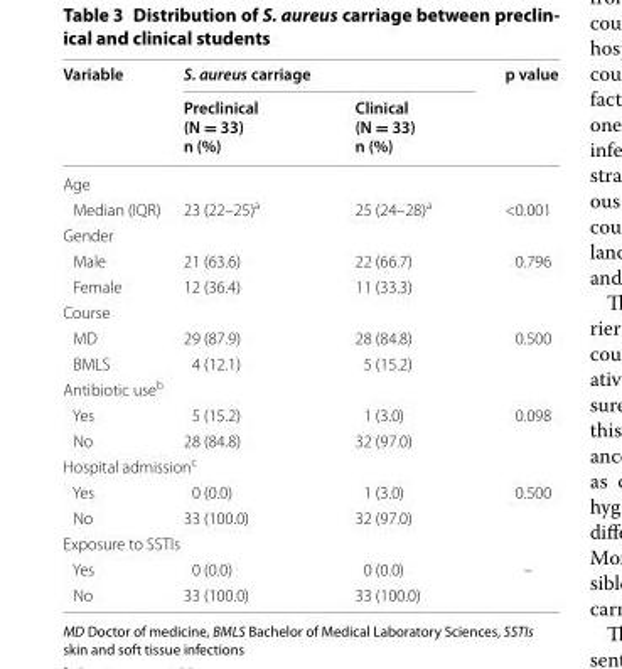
<table><thead><tr><td rowspan="2">Variable</td><td colspan="2">S. aureus carriage</td><td rowspan="2">p value</td></tr><tr><td>Preclinical (N = 33) n (%)</td><td>Clinical (N = 33) n (%)</td></tr></thead><tbody><tr><td colspan="4">Age</td></tr><tr><td>Median (IQR)</td><td>23 (22–25)<sup>a</sup></td><td>25 (24–28)<sup>a</sup></td><td>&lt;0.001</td></tr><tr><td colspan="4">Gender</td></tr><tr><td>Male</td><td>21 (63.6)</td><td>22 (66.7)</td><td rowspan="2">0.796</td></tr><tr><td>Female</td><td>12 (36.4)</td><td>11 (33.3)</td></tr><tr><td colspan="4">Course</td></tr><tr><td>MD</td><td>29 (87.9)</td><td>28 (84.8)</td><td rowspan="2">0.500</td></tr><tr><td>BMLS</td><td>4 (12.1)</td><td>5 (15.2)</td></tr><tr><td colspan="4">Antibiotic use<sup>b</sup></td></tr><tr><td>Yes</td><td>5 (15.2)</td><td>1 (3.0)</td><td rowspan="2">0.098</td></tr><tr><td>No</td><td>28 (84.8)</td><td>32 (97.0)</td></tr><tr><td colspan="4">Hospital admission<sup>c</sup></td></tr><tr><td>Yes</td><td>0 (0.0)</td><td>1 (3.0)</td><td rowspan="2">0.500</td></tr><tr><td>No</td><td>33 (100.0)</td><td>32 (97.0)</td></tr><tr><td colspan="4">Exposure to SSTIs</td></tr><tr><td>Yes</td><td>0 (0.0)</td><td>0 (0.0)</td><td rowspan="2">–</td></tr><tr><td>No</td><td>33 (100.0)</td><td>33 (100.0)</td></tr></tbody></table>